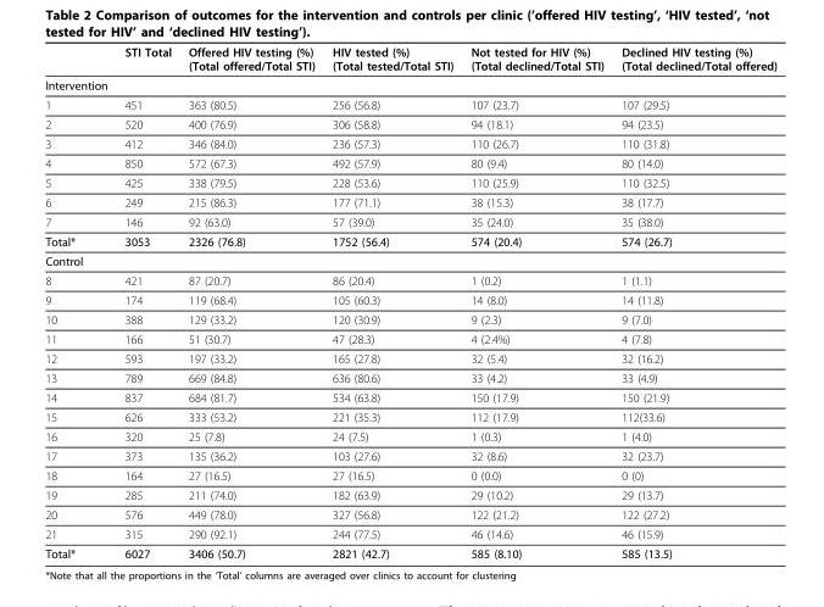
<table><thead><tr><td></td><td>STI Total</td><td>Offered HIV testing (%) (Total offered/Total STI)</td><td>HIV tested (%) (Total tested/Total STI)</td><td>Not tested for HIV (%) (Total declined/Total STI)</td><td>Declined HIV testing (%) (Total declined/Total offered)</td></tr></thead><tbody><tr><td colspan="6">Intervention</td></tr><tr><td>1</td><td>451</td><td>363 (80.5)</td><td>256 (56.8)</td><td>107 (23.7)</td><td>107 (29.5)</td></tr><tr><td>2</td><td>520</td><td>400 (76.9)</td><td>306 (58.8)</td><td>94 (18.1)</td><td>94 (23.5)</td></tr><tr><td>3</td><td>412</td><td>346 (84.0)</td><td>236 (57.3)</td><td>110 (26.7)</td><td>110 (31.8)</td></tr><tr><td>4</td><td>850</td><td>572 (67.3)</td><td>492 (57.9)</td><td>80 (9.4)</td><td>80 (14.0)</td></tr><tr><td>5</td><td>425</td><td>338 (79.5)</td><td>228 (53.6)</td><td>110 (25.9)</td><td>110 (32.5)</td></tr><tr><td>6</td><td>249</td><td>215 (86.3)</td><td>177 (71.1)</td><td>38 (15.3)</td><td>38 (17.7)</td></tr><tr><td>7</td><td>146</td><td>92 (63.0)</td><td>57 (39.0)</td><td>35 (24.0)</td><td>35 (38.0)</td></tr><tr><td>Total*</td><td>3053</td><td>2326 (76.8)</td><td>1752 (56.4)</td><td>574 (20.4)</td><td>574 (26.7)</td></tr><tr><td colspan="6">Control</td></tr><tr><td>8</td><td>421</td><td>87 (20.7)</td><td>86 (20.4)</td><td>1 (0.2)</td><td>1 (1.1)</td></tr><tr><td>9</td><td>174</td><td>119 (68.4)</td><td>105 (60.3)</td><td>14 (8.0)</td><td>14 (11.8)</td></tr><tr><td>10</td><td>388</td><td>129 (33.2)</td><td>120 (30.9)</td><td>9 (2.3)</td><td>9 (7.0)</td></tr><tr><td>11</td><td>166</td><td>51 (30.7)</td><td>47 (28.3)</td><td>4 (2.4%)</td><td>4 (7.8)</td></tr><tr><td>12</td><td>593</td><td>197 (33.2)</td><td>165 (27.8)</td><td>32 (5.4)</td><td>32 (16.2)</td></tr><tr><td>13</td><td>789</td><td>669 (84.8)</td><td>636 (80.6)</td><td>33 (4.2)</td><td>33 (4.9)</td></tr><tr><td>14</td><td>837</td><td>684 (81.7)</td><td>534 (63.8)</td><td>150 (17.9)</td><td>150 (21.9)</td></tr><tr><td>15</td><td>626</td><td>333 (53.2)</td><td>221 (35.3)</td><td>112 (17.9)</td><td>112(33.6)</td></tr><tr><td>16</td><td>320</td><td>25 (7.8)</td><td>24 (7.5)</td><td>1 (0.3)</td><td>1 (4.0)</td></tr><tr><td>17</td><td>373</td><td>135 (36.2)</td><td>103 (27.6)</td><td>32 (8.6)</td><td>32 (23.7)</td></tr><tr><td>18</td><td>164</td><td>27 (16.5)</td><td>27 (16.5)</td><td>0 (0.0)</td><td>0 (0)</td></tr><tr><td>19</td><td>285</td><td>211 (74.0)</td><td>182 (63.9)</td><td>29 (10.2)</td><td>29 (13.7)</td></tr><tr><td>20</td><td>576</td><td>449 (78.0)</td><td>327 (56.8)</td><td>122 (21.2)</td><td>122 (27.2)</td></tr><tr><td>21</td><td>315</td><td>290 (92.1)</td><td>244 (77.5)</td><td>46 (14.6)</td><td>46 (15.9)</td></tr><tr><td>Total*</td><td>6027</td><td>3406 (50.7)</td><td>2821 (42.7)</td><td>585 (8.10)</td><td>585 (13.5)</td></tr></tbody></table>